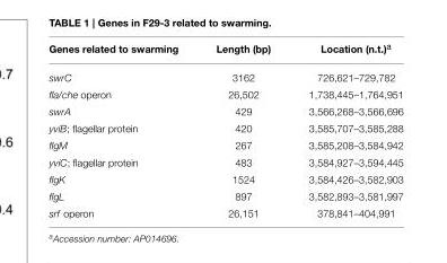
<table><thead><tr><td>Genes related to swarming</td><td>Length (bp)</td><td>Location (n.t.)<sup>a</sup></td></tr></thead><tbody><tr><td>swrC</td><td>3162</td><td>726,621–729,782</td></tr><tr><td>fla/che operon</td><td>26,502</td><td>1,738,445–1,764,951</td></tr><tr><td>swrA</td><td>429</td><td>3,566,268–3,566,696</td></tr><tr><td>yviB; flagellar protein</td><td>420</td><td>3,585,707–3,585,288</td></tr><tr><td>flgM</td><td>267</td><td>3,585,208–3,584,942</td></tr><tr><td>yviC; flagellar protein</td><td>483</td><td>3,584,927–3,594,445</td></tr><tr><td>flgK</td><td>1524</td><td>3,584,426–3,582,903</td></tr><tr><td>flgL</td><td>897</td><td>3,582,893–3,581,997</td></tr><tr><td>srf operon</td><td>26,151</td><td>378,841–404,991</td></tr></tbody></table>